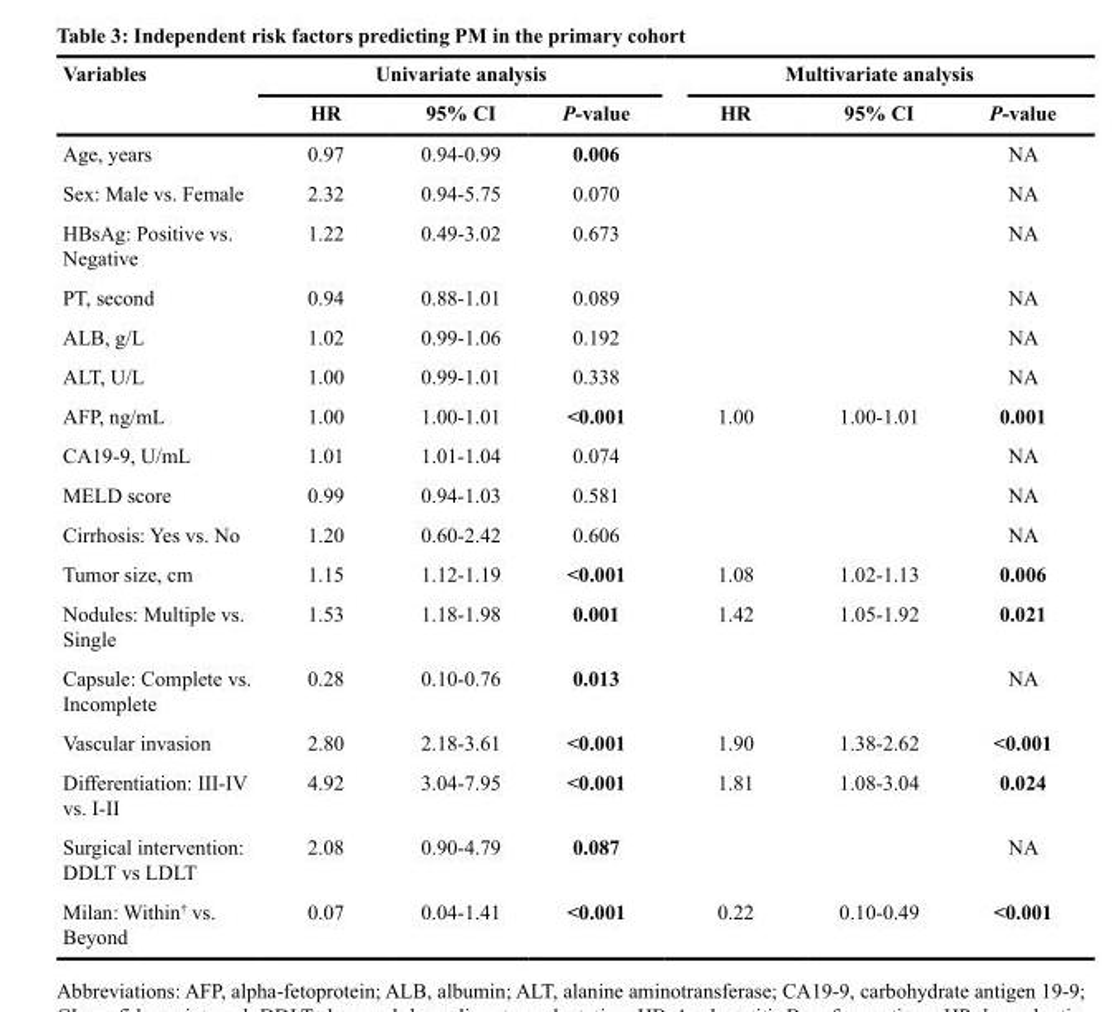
<table><thead><tr><td rowspan="2">Variables</td><td colspan="3">Univariate analysis</td><td colspan="3">Multivariate analysis</td></tr><tr><td>HR</td><td>95% CI</td><td>P-value</td><td>HR</td><td>95% CI</td><td>P-value</td></tr></thead><tbody><tr><td>Age, years</td><td>0.97</td><td>0.94-0.99</td><td>0.006</td><td></td><td></td><td>NA</td></tr><tr><td>Sex: Male vs. Female</td><td>2.32</td><td>0.94-5.75</td><td>0.070</td><td></td><td></td><td>NA</td></tr><tr><td>HBsAg: Positive vs. Negative</td><td>1.22</td><td>0.49-3.02</td><td>0.673</td><td></td><td></td><td>NA</td></tr><tr><td>PT, second</td><td>0.94</td><td>0.88-1.01</td><td>0.089</td><td></td><td></td><td>NA</td></tr><tr><td>ALB, g/L</td><td>1.02</td><td>0.99-1.06</td><td>0.192</td><td></td><td></td><td>NA</td></tr><tr><td>ALT, U/L</td><td>1.00</td><td>0.99-1.01</td><td>0.338</td><td></td><td></td><td>NA</td></tr><tr><td>AFP, ng/mL</td><td>1.00</td><td>1.00-1.01</td><td>&lt;0.001</td><td>1.00</td><td>1.00-1.01</td><td>0.001</td></tr><tr><td>CA19-9, U/mL</td><td>1.01</td><td>1.01-1.04</td><td>0.074</td><td></td><td></td><td>NA</td></tr><tr><td>MELD score</td><td>0.99</td><td>0.94-1.03</td><td>0.581</td><td></td><td></td><td>NA</td></tr><tr><td>Cirrhosis: Yes vs. No</td><td>1.20</td><td>0.60-2.42</td><td>0.606</td><td></td><td></td><td>NA</td></tr><tr><td>Tumor size, cm</td><td>1.15</td><td>1.12-1.19</td><td>&lt;0.001</td><td>1.08</td><td>1.02-1.13</td><td>0.006</td></tr><tr><td>Nodules: Multiple vs. Single</td><td>1.53</td><td>1.18-1.98</td><td>0.001</td><td>1.42</td><td>1.05-1.92</td><td>0.021</td></tr><tr><td>Capsule: Complete vs. Incomplete</td><td>0.28</td><td>0.10-0.76</td><td>0.013</td><td></td><td></td><td>NA</td></tr><tr><td>Vascular invasion</td><td>2.80</td><td>2.18-3.61</td><td>&lt;0.001</td><td>1.90</td><td>1.38-2.62</td><td>&lt;0.001</td></tr><tr><td>Differentiation: III-IV vs. I-II</td><td>4.92</td><td>3.04-7.95</td><td>&lt;0.001</td><td>1.81</td><td>1.08-3.04</td><td>0.024</td></tr><tr><td>Surgical intervention: DDLT vs LDLT</td><td>2.08</td><td>0.90-4.79</td><td>0.087</td><td></td><td></td><td>NA</td></tr><tr><td>Milan: Within<sup>†</sup> vs. Beyond</td><td>0.07</td><td>0.04-1.41</td><td>&lt;0.001</td><td>0.22</td><td>0.10-0.49</td><td>&lt;0.001</td></tr></tbody></table>